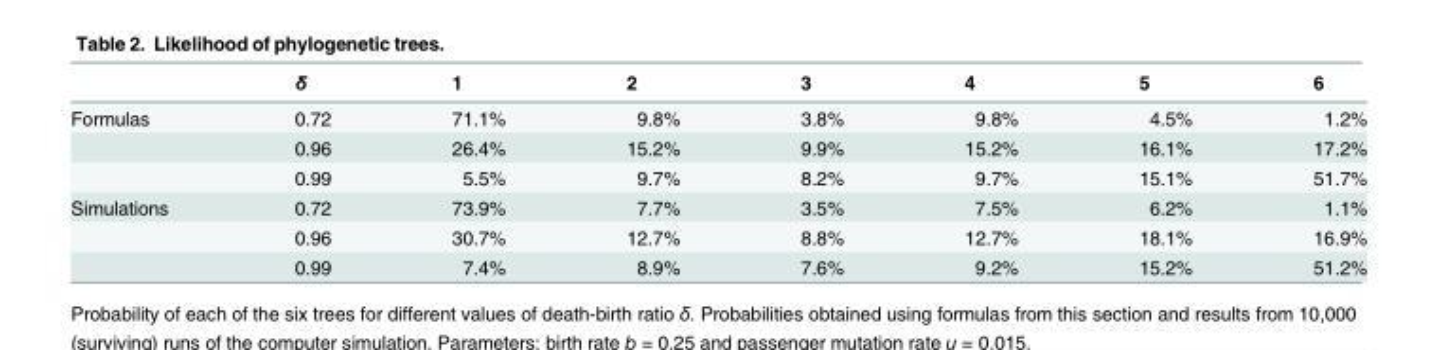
<table><thead><tr><td></td><td>δ</td><td>1</td><td>2</td><td>3</td><td>4</td><td>5</td><td>6</td></tr></thead><tbody><tr><td rowspan="3">Formulas</td><td>0.72</td><td>71.1%</td><td>9.8%</td><td>3.8%</td><td>9.8%</td><td>4.5%</td><td>1.2%</td></tr><tr><td>0.96</td><td>26.4%</td><td>15.2%</td><td>9.9%</td><td>15.2%</td><td>16.1%</td><td>17.2%</td></tr><tr><td>0.99</td><td>5.5%</td><td>9.7%</td><td>8.2%</td><td>9.7%</td><td>15.1%</td><td>51.7%</td></tr><tr><td rowspan="3">Simulations</td><td>0.72</td><td>73.9%</td><td>7.7%</td><td>3.5%</td><td>7.5%</td><td>6.2%</td><td>1.1%</td></tr><tr><td>0.96</td><td>30.7%</td><td>12.7%</td><td>8.8%</td><td>12.7%</td><td>18.1%</td><td>16.9%</td></tr><tr><td>0.99</td><td>7.4%</td><td>8.9%</td><td>7.6%</td><td>9.2%</td><td>15.2%</td><td>51.2%</td></tr></tbody></table>